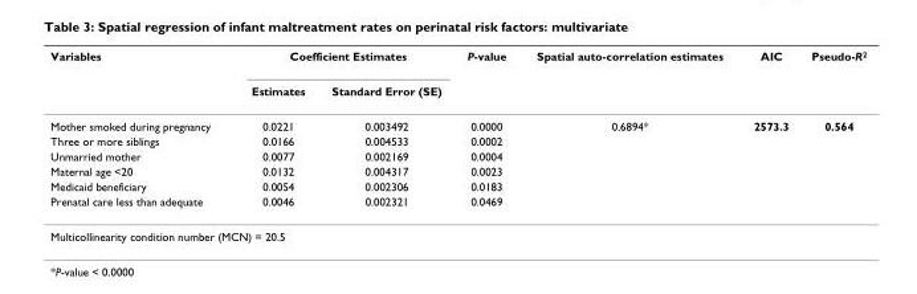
<table><thead><tr><td rowspan="2">Variables</td><td colspan="2">Coefficient Estimates</td><td rowspan="2">P-value</td><td rowspan="2">Spatial auto-correlation estimates</td><td rowspan="2">AIC</td><td rowspan="2">Pseudo-R<sup>2</sup></td></tr><tr><td>Estimates</td><td>Standard Error (SE)</td></tr></thead><tbody><tr><td>Mother smoked during pregnancy</td><td>0.0221</td><td>0.003492</td><td>0.0000</td><td>0.6894*</td><td>2573.3</td><td>0.564</td></tr><tr><td>Three or more siblings</td><td>0.0166</td><td>0.004533</td><td>0.0002</td><td></td><td></td><td></td></tr><tr><td>Unmarried mother</td><td>0.0077</td><td>0.002169</td><td>0.0004</td><td></td><td></td><td></td></tr><tr><td>Maternal age &lt;20</td><td>0.0132</td><td>0.004317</td><td>0.0023</td><td></td><td></td><td></td></tr><tr><td>Medicaid beneficiary</td><td>0.0054</td><td>0.002306</td><td>0.0183</td><td></td><td></td><td></td></tr><tr><td>Prenatal care less than adequate</td><td>0.0046</td><td>0.002321</td><td>0.0469</td><td></td><td></td><td></td></tr><tr><td colspan="7">Multicollinearity condition number (MCN) = 20.5</td></tr></tbody></table>